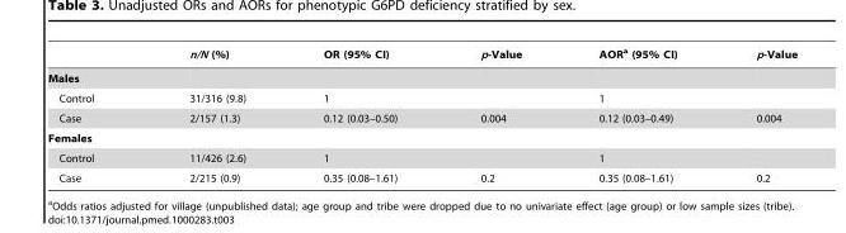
<table><thead><tr><td></td><td>n/N (%)</td><td>OR (95% CI)</td><td>p-Value</td><td>AOR<sup>a</sup> (95% CI)</td><td>p-Value</td></tr></thead><tbody><tr><td colspan="6">Males</td></tr><tr><td>Control</td><td>31/316 (9.8)</td><td>1</td><td></td><td>1</td><td></td></tr><tr><td>Case</td><td>2/157 (1.3)</td><td>0.12 (0.03–0.50)</td><td>0.004</td><td>0.12 (0.03–0.49)</td><td>0.004</td></tr><tr><td colspan="6">Females</td></tr><tr><td>Control</td><td>11/426 (2.6)</td><td>1</td><td></td><td>1</td><td></td></tr><tr><td>Case</td><td>2/215 (0.9)</td><td>0.35 (0.08–1.61)</td><td>0.2</td><td>0.35 (0.08–1.61)</td><td>0.2</td></tr></tbody></table>